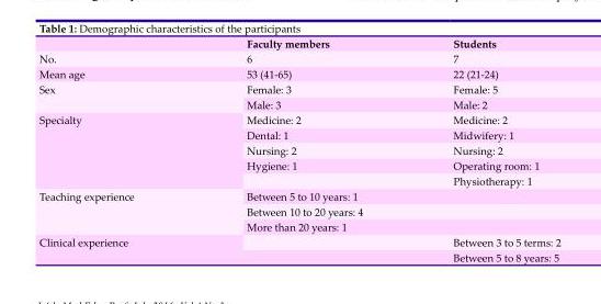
<table><thead><tr><td></td><td>Faculty members</td><td>Students</td></tr></thead><tbody><tr><td>No.</td><td>6</td><td>7</td></tr><tr><td>Mean age</td><td>53 (41-65)</td><td>22 (21-24)</td></tr><tr><td rowspan="2">Sex</td><td>Female: 3</td><td>Female: 5</td></tr><tr><td>Male: 3</td><td>Male: 2</td></tr><tr><td rowspan="5">Specialty</td><td>Medicine: 2</td><td>Medicine: 2</td></tr><tr><td>Dental: 1</td><td>Midwifery: 1</td></tr><tr><td>Nursing: 2</td><td>Nursing: 2</td></tr><tr><td>Hygiene: 1</td><td>Operating room: 1</td></tr><tr><td></td><td>Physiotherapy: 1</td></tr><tr><td rowspan="3">Teaching experience</td><td>Between 5 to 10 years: 1</td><td></td></tr><tr><td>Between 10 to 20 years: 4</td><td></td></tr><tr><td>More than 20 years: 1</td><td></td></tr><tr><td rowspan="2">Clinical experience</td><td></td><td>Between 3 to 5 terms: 2</td></tr><tr><td></td><td>Between 5 to 8 years: 5</td></tr></tbody></table>